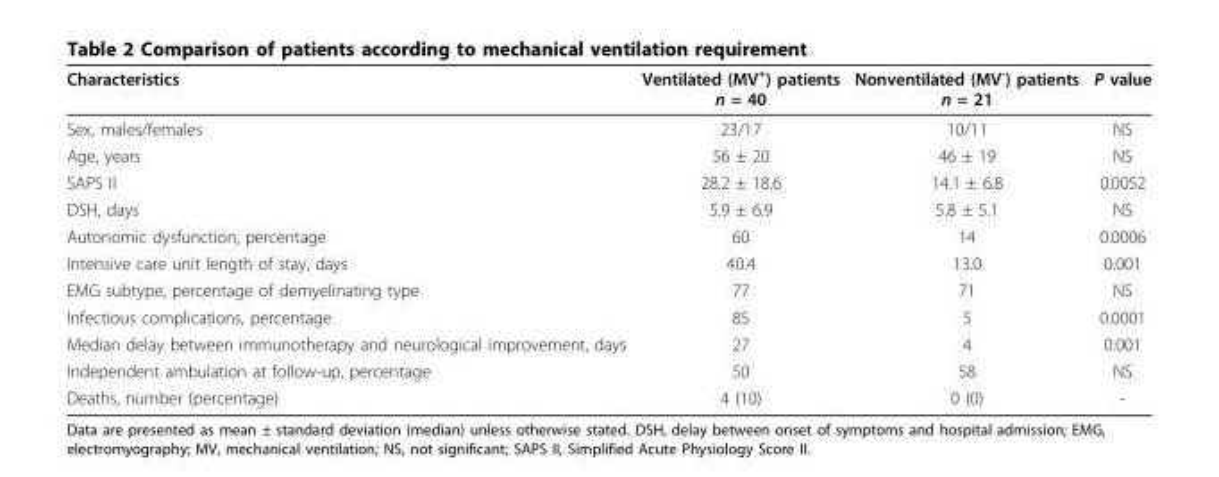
<table><thead><tr><td>Characteristics</td><td>Ventilated (MV<sup>+</sup>) patients n = 40</td><td>Nonventilated (MV<sup>-</sup>) patients n = 21</td><td>P value</td></tr></thead><tbody><tr><td>Sex, males/females</td><td>23/17</td><td>10/11</td><td>NS</td></tr><tr><td>Age, years</td><td>56 ± 20</td><td>46 ± 19</td><td>NS</td></tr><tr><td>SAPS II</td><td>28.2 ± 18.6</td><td>14.1 ± 6.8</td><td>0.0052</td></tr><tr><td>DSH, days</td><td>5.9 ± 6.9</td><td>5.8 ± 5.1</td><td>NS</td></tr><tr><td>Autonomic dysfunction, percentage</td><td>60</td><td>14</td><td>0.0006</td></tr><tr><td>Intensive care unit length of stay, days</td><td>40.4</td><td>13.0</td><td>0.001</td></tr><tr><td>EMG subtype, percentage of demyelinating type</td><td>77</td><td>71</td><td>NS</td></tr><tr><td>Infectious complications, percentage</td><td>85</td><td>5</td><td>0.0001</td></tr><tr><td>Median delay between immunotherapy and neurological improvement, days</td><td>27</td><td>4</td><td>0.001</td></tr><tr><td>Independent ambulation at follow-up, percentage</td><td>50</td><td>58</td><td>NS</td></tr><tr><td>Deaths, number (percentage)</td><td>4 (10)</td><td>0 (0)</td><td>-</td></tr></tbody></table>